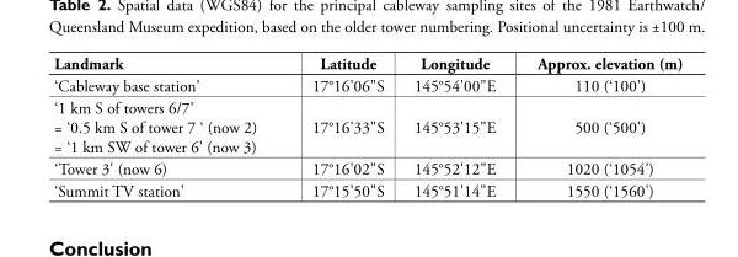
<table><thead><tr><td>Landmark</td><td>Latitude Longitude</td><td>Approx. elevation (m)</td></tr></thead><tbody><tr><td>‘Cableway base station&#x27;</td><td>17°16&#x27;06&quot;S 145°54&#x27;00&quot;E</td><td>110 (‘100&#x27;)</td></tr><tr><td>‘1 km S of towers 6/7&#x27; = ‘0.5 km S of tower 7 ‘ (now 2) = ‘1 km SW of tower 6&#x27; (now 3)</td><td>17°16&#x27;33&quot;S 145°53&#x27;15&quot;E</td><td>500 (‘500&#x27;)</td></tr><tr><td>‘Tower 3&#x27; (now 6)</td><td>17°16&#x27;02&quot;S 145°52&#x27;12&quot;E</td><td>1020 (‘1054&#x27;)</td></tr><tr><td>‘Summit TV station&#x27;</td><td>17°15&#x27;50&quot;S 145°51&#x27;14&quot;E</td><td>1550 (‘1560&#x27;)</td></tr></tbody></table>